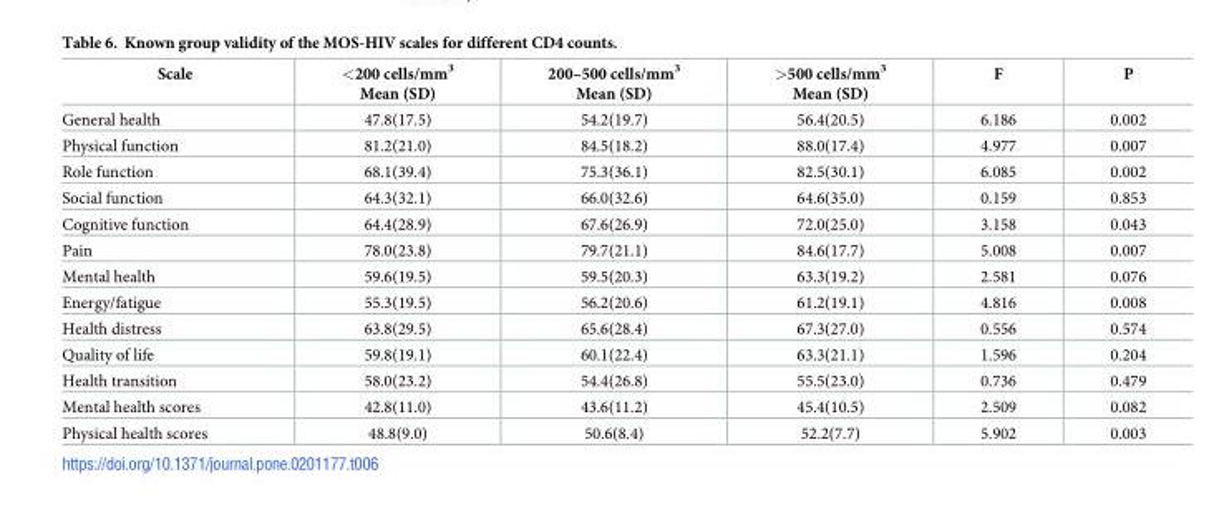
<table><thead><tr><td>Scale</td><td>&lt;200 cells/mm<sup>3</sup> Mean (SD)</td><td>200–500 cells/mm<sup>3</sup> Mean (SD)</td><td>&gt;500 cells/mm<sup>3</sup> Mean (SD)</td><td>F</td><td>P</td></tr></thead><tbody><tr><td>General health</td><td>47.8(17.5)</td><td>54.2(19.7)</td><td>56.4(20.5)</td><td>6.186</td><td>0.002</td></tr><tr><td>Physical function</td><td>81.2(21.0)</td><td>84.5(18.2)</td><td>88.0(17.4)</td><td>4.977</td><td>0.007</td></tr><tr><td>Role function</td><td>68.1(39.4)</td><td>75.3(36.1)</td><td>82.5(30.1)</td><td>6.085</td><td>0.002</td></tr><tr><td>Social function</td><td>64.3(32.1)</td><td>66.0(32.6)</td><td>64.6(35.0)</td><td>0.159</td><td>0.853</td></tr><tr><td>Cognitive function</td><td>64.4(28.9)</td><td>67.6(26.9)</td><td>72.0(25.0)</td><td>3.158</td><td>0.043</td></tr><tr><td>Pain</td><td>78.0(23.8)</td><td>79.7(21.1)</td><td>84.6(17.7)</td><td>5.008</td><td>0.007</td></tr><tr><td>Mental health</td><td>59.6(19.5)</td><td>59.5(20.3)</td><td>63.3(19.2)</td><td>2.581</td><td>0.076</td></tr><tr><td>Energy/fatigue</td><td>55.3(19.5)</td><td>56.2(20.6)</td><td>61.2(19.1)</td><td>4.816</td><td>0.008</td></tr><tr><td>Health distress</td><td>63.8(29.5)</td><td>65.6(28.4)</td><td>67.3(27.0)</td><td>0.556</td><td>0.574</td></tr><tr><td>Quality of life</td><td>59.8(19.1)</td><td>60.1(22.4)</td><td>63.3(21.1)</td><td>1.596</td><td>0.204</td></tr><tr><td>Health transition</td><td>58.0(23.2)</td><td>54.4(26.8)</td><td>55.5(23.0)</td><td>0.736</td><td>0.479</td></tr><tr><td>Mental health scores</td><td>42.8(11.0)</td><td>43.6(11.2)</td><td>45.4(10.5)</td><td>2.509</td><td>0.082</td></tr><tr><td>Physical health scores</td><td>48.8(9.0)</td><td>50.6(8.4)</td><td>52.2(7.7)</td><td>5.902</td><td>0.003</td></tr></tbody></table>